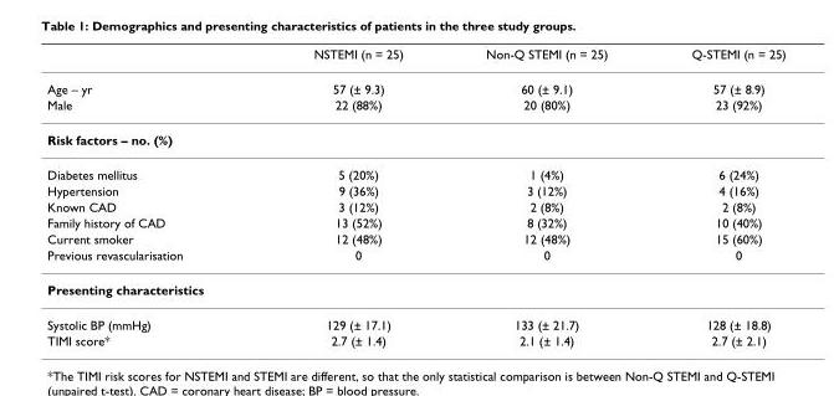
<table><thead><tr><td></td><td>NSTEMI (n = 25)</td><td>Non-Q STEMI (n = 25)</td><td>Q-STEMI (n = 25)</td></tr></thead><tbody><tr><td>Age – yr</td><td>57 (± 9.3)</td><td>60 (± 9.1)</td><td>57 (± 8.9)</td></tr><tr><td>Male</td><td>22 (88%)</td><td>20 (80%)</td><td>23 (92%)</td></tr><tr><td colspan="4">Risk factors – no. (%)</td></tr><tr><td>Diabetes mellitus</td><td>5 (20%)</td><td>1 (4%)</td><td>6 (24%)</td></tr><tr><td>Hypertension</td><td>9 (36%)</td><td>3 (12%)</td><td>4 (16%)</td></tr><tr><td>Known CAD</td><td>3 (12%)</td><td>2 (8%)</td><td>2 (8%)</td></tr><tr><td>Family history of CAD</td><td>13 (52%)</td><td>8 (32%)</td><td>10 (40%)</td></tr><tr><td>Current smoker</td><td>12 (48%)</td><td>12 (48%)</td><td>15 (60%)</td></tr><tr><td>Previous revascularisation</td><td>0</td><td>0</td><td>0</td></tr><tr><td colspan="4">Presenting characteristics</td></tr><tr><td>Systolic BP (mmHg)</td><td>129 (± 17.1)</td><td>133 (± 21.7)</td><td>128 (± 18.8)</td></tr><tr><td>TIMI score*</td><td>2.7 (± 1.4)</td><td>2.1 (± 1.4)</td><td>2.7 (± 2.1)</td></tr></tbody></table>